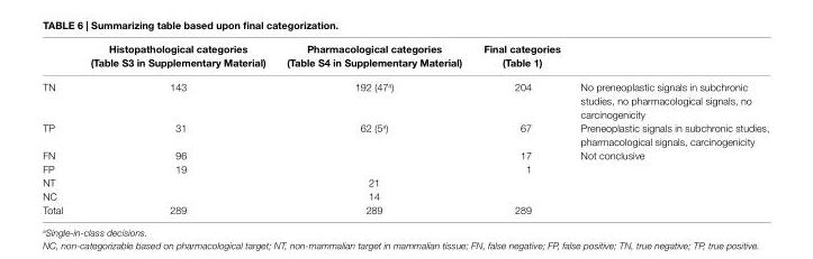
<table><thead><tr><td></td><td>Histopathological categories (Table S3 in Supplementary Material)</td><td>Pharmacological categories (Table S4 in Supplementary Material)</td><td>Final categories (Table 1)</td><td></td></tr></thead><tbody><tr><td>TN</td><td>143</td><td>192 (47<sup>a</sup>)</td><td>204</td><td>No preneoplastic signals in subchronic studies, no pharmacological signals, no carcinogenicity</td></tr><tr><td>TP</td><td>31</td><td>62 (5<sup>a</sup>)</td><td>67</td><td>Preneoplastic signals in subchronic studies, pharmacological signals, carcinogenicity</td></tr><tr><td>FN</td><td>96</td><td></td><td>17</td><td rowspan="2">Not conclusive</td></tr><tr><td>FP</td><td>19</td><td></td><td>1</td></tr><tr><td>NT</td><td></td><td>21</td><td></td><td></td></tr><tr><td>NC</td><td></td><td>14</td><td></td><td></td></tr><tr><td>Total</td><td>289</td><td>289</td><td>289</td><td></td></tr></tbody></table>